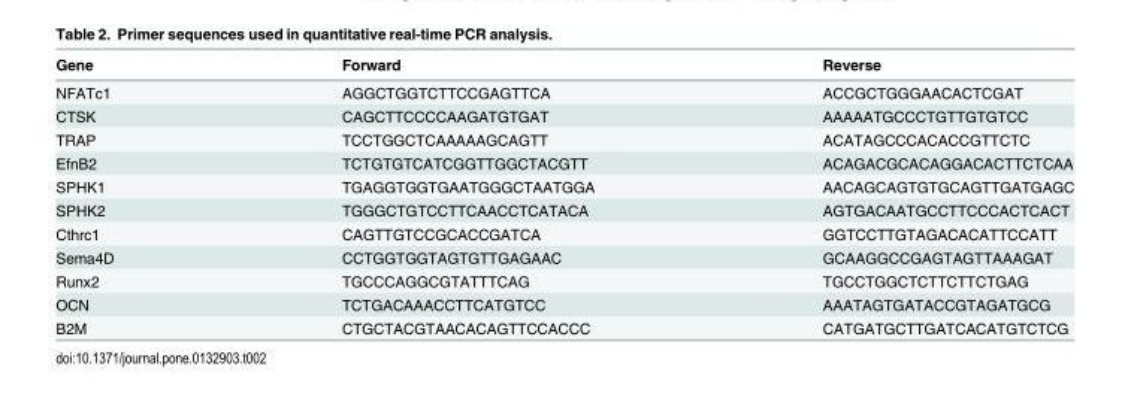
<table><thead><tr><td>Gene</td><td>Forward</td><td>Reverse</td></tr></thead><tbody><tr><td>NFATc1</td><td>AGGCTGGTCTTCCGAGTTCA</td><td>ACCGCTGGGAACACTCGAT</td></tr><tr><td>CTSK</td><td>CAGCTTCCCCAAGATGTGAT</td><td>AAAAATGCCCTGTTGTGTCC</td></tr><tr><td>TRAP</td><td>TCCTGGCTCAAAAAGCAGTT</td><td>ACATAGCCCACACCGTTCTC</td></tr><tr><td>EfnB2</td><td>TCTGTGTCATCGGTTGGCTACGTT</td><td>ACAGACGCACAGGACACTTCTCAA</td></tr><tr><td>SPHK1</td><td>TGAGGTGGTGAATGGGCTAATGGA</td><td>AACAGCAGTGTGCAGTTGATGAGC</td></tr><tr><td>SPHK2</td><td>TGGGCTGTCCTTCAACCTCATACA</td><td>AGTGACAATGCCTTCCCACTCACT</td></tr><tr><td>Cthrc1</td><td>CAGTTGTCCGCACCGATCA</td><td>GGTCCTTGTAGACACATTCCATT</td></tr><tr><td>Sema4D</td><td>CCTGGTGGTAGTGTTGAGAAC</td><td>GCAAGGCCGAGTAGTTAAAGAT</td></tr><tr><td>Runx2</td><td>TGCCCAGGCGTATTTCAG</td><td>TGCCTGGCTCTTCTTCTGAG</td></tr><tr><td>OCN</td><td>TCTGACAAACCTTCATGTCC</td><td>AAATAGTGATACCGTAGATGCG</td></tr><tr><td>B2M</td><td>CTGCTACGTAACACAGTTCCACCC</td><td>CATGATGCTTGATCACATGTCTCG</td></tr></tbody></table>